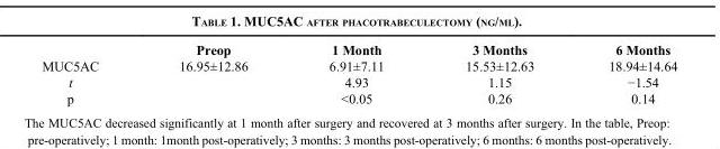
<table><thead><tr><td></td><td>Preop</td><td>1 Month</td><td>3 Months</td><td>6 Months</td></tr></thead><tbody><tr><td>MUC5AC</td><td>16.95±12.86</td><td>6.91±7.11</td><td>15.53±12.63</td><td>18.94±14.64</td></tr><tr><td>t</td><td></td><td>4.93</td><td>1.15</td><td>−1.54</td></tr><tr><td>p</td><td></td><td>&lt;0.05</td><td>0.26</td><td>0.14</td></tr></tbody></table>